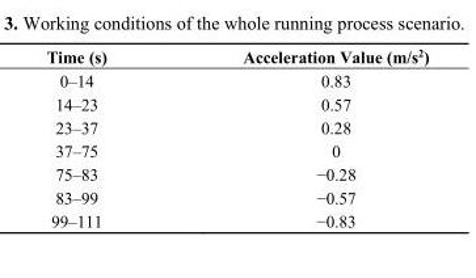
<table><thead><tr><td>Time (s)</td><td>Acceleration Value (m/s<sup>2</sup>)</td></tr></thead><tbody><tr><td>0–14</td><td>0.83</td></tr><tr><td>14–23</td><td>0.57</td></tr><tr><td>23–37</td><td>0.28</td></tr><tr><td>37–75</td><td>0</td></tr><tr><td>75–83</td><td>−0.28</td></tr><tr><td>83–99</td><td>−0.57</td></tr><tr><td>99–111</td><td>−0.83</td></tr></tbody></table>